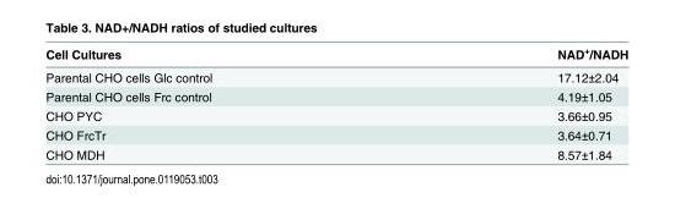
<table><thead><tr><td>Cell Cultures</td><td>NAD<sup>+</sup>/NADH</td></tr></thead><tbody><tr><td>Parental CHO cells Glc control</td><td>17.12±2.04</td></tr><tr><td>Parental CHO cells Frc control</td><td>4.19±1.05</td></tr><tr><td>CHO PYC</td><td>3.66±0.95</td></tr><tr><td>CHO FrcTr</td><td>3.64±0.71</td></tr><tr><td>CHO MDH</td><td>8.57±1.84</td></tr></tbody></table>